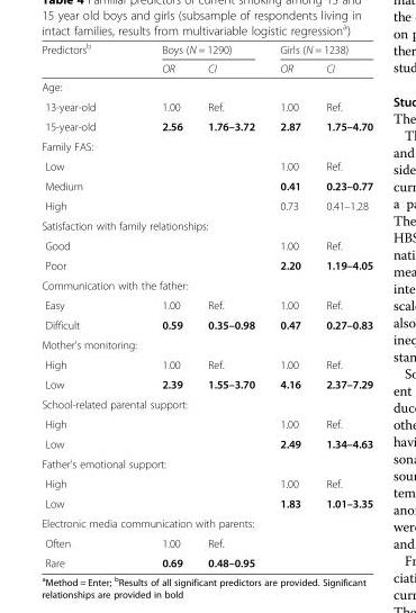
<table><thead><tr><td rowspan="2">Predictors<sup>b</sup></td><td colspan="2">Boys (N = 1290)</td><td colspan="2">Girls (N = 1238)</td></tr><tr><td>OR</td><td>CI</td><td>OR</td><td>CI</td></tr></thead><tbody><tr><td colspan="5">Age:</td></tr><tr><td>13-year-old</td><td>1.00</td><td>Ref.</td><td>1.00</td><td>Ref.</td></tr><tr><td>15-year-old</td><td>2.56</td><td>1.76–3.72</td><td>2.87</td><td>1.75–4.70</td></tr><tr><td colspan="5">Family FAS:</td></tr><tr><td>Low</td><td></td><td></td><td>1.00</td><td>Ref.</td></tr><tr><td>Medium</td><td></td><td></td><td>0.41</td><td>0.23–0.77</td></tr><tr><td>High</td><td></td><td></td><td>0.73</td><td>0.41–1.28</td></tr><tr><td colspan="5">Satisfaction with family relationships:</td></tr><tr><td>Good</td><td></td><td></td><td>1.00</td><td>Ref.</td></tr><tr><td>Poor</td><td></td><td></td><td>2.20</td><td>1.19–4.05</td></tr><tr><td colspan="5">Communication with the father:</td></tr><tr><td>Easy</td><td>1.00</td><td>Ref.</td><td>1.00</td><td>Ref.</td></tr><tr><td>Difficult</td><td>0.59</td><td>0.35–0.98</td><td>0.47</td><td>0.27–0.83</td></tr><tr><td colspan="5">Mother&#x27;s monitoring:</td></tr><tr><td>High</td><td>1.00</td><td>Ref.</td><td>1.00</td><td>Ref.</td></tr><tr><td>Low</td><td>2.39</td><td>1.55–3.70</td><td>4.16</td><td>2.37–7.29</td></tr><tr><td colspan="5">School-related parental support:</td></tr><tr><td>High</td><td></td><td></td><td>1.00</td><td>Ref.</td></tr><tr><td>Low</td><td></td><td></td><td>2.49</td><td>1.34–4.63</td></tr><tr><td colspan="5">Father&#x27;s emotional support:</td></tr><tr><td>High</td><td></td><td></td><td>1.00</td><td>Ref.</td></tr><tr><td>Low</td><td></td><td></td><td>1.83</td><td>1.01–3.35</td></tr><tr><td colspan="5">Electronic media communication with parents:</td></tr><tr><td>Often</td><td>1.00</td><td>Ref.</td><td></td><td></td></tr><tr><td>Rare</td><td>0.69</td><td>0.48–0.95</td><td></td><td></td></tr></tbody></table>